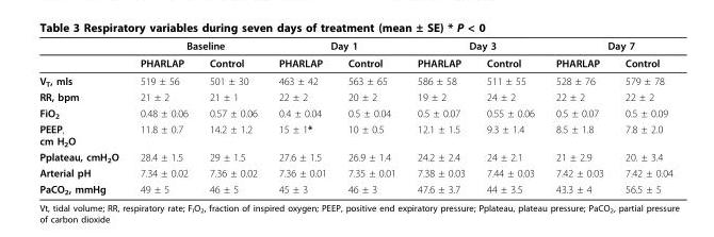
<table><thead><tr><td rowspan="2"></td><td colspan="2">Baseline</td><td colspan="2">Day 1</td><td colspan="2">Day 3</td><td colspan="2">Day 7</td></tr><tr><td>PHARLAP</td><td>Control</td><td>PHARLAP</td><td>Control</td><td>PHARLAP</td><td>Control</td><td>PHARLAP</td><td>Control</td></tr></thead><tbody><tr><td>V<sub>T</sub>, mls</td><td>519 ± 56</td><td>501 ± 30</td><td>463 ± 42</td><td>563 ± 65</td><td>586 ± 58</td><td>511 ± 55</td><td>528 ± 76</td><td>579 ± 78</td></tr><tr><td>RR, bpm</td><td>21 ± 2</td><td>21 ± 1</td><td>22 ± 2</td><td>20 ± 2</td><td>19 ± 2</td><td>24 ± 2</td><td>22 ± 2</td><td>22 ± 2</td></tr><tr><td>FiO<sub>2</sub></td><td>0.48 ± 0.06</td><td>0.57 ± 0.06</td><td>0.4 ± 0.04</td><td>0.5 ± 0.04</td><td>0.5 ± 0.07</td><td>0.55 ± 0.06</td><td>0.5 ± 0.07</td><td>0.5 ± 0.09</td></tr><tr><td>PEEP, cm H<sub>2</sub>O</td><td>11.8 ± 0.7</td><td>14.2 ± 1.2</td><td>15 ± 1*</td><td>10 ± 0.5</td><td>12.1 ± 1.5</td><td>9.3 ± 1.4</td><td>8.5 ± 1.8</td><td>7.8 ± 2.0</td></tr><tr><td>Pplateau, cmH<sub>2</sub>O</td><td>28.4 ± 1.5</td><td>29 ± 1.5</td><td>27.6 ± 1.5</td><td>26.9 ± 1.4</td><td>24.2 ± 2.4</td><td>24 ± 2.1</td><td>21 ± 2.9</td><td>20. ± 3.4</td></tr><tr><td>Arterial pH</td><td>7.34 ± 0.02</td><td>7.36 ± 0.02</td><td>7.36 ± 0.01</td><td>7.35 ± 0.01</td><td>7.38 ± 0.03</td><td>7.44 ± 0.03</td><td>7.42 ± 0.03</td><td>7.42 ± 0.04</td></tr><tr><td>PaCO<sub>2</sub>, mmHg</td><td>49 ± 5</td><td>46 ± 5</td><td>45 ± 3</td><td>46 ± 3</td><td>47.6 ± 3.7</td><td>44 ± 3.5</td><td>43.3 ± 4</td><td>56.5 ± 5</td></tr></tbody></table>